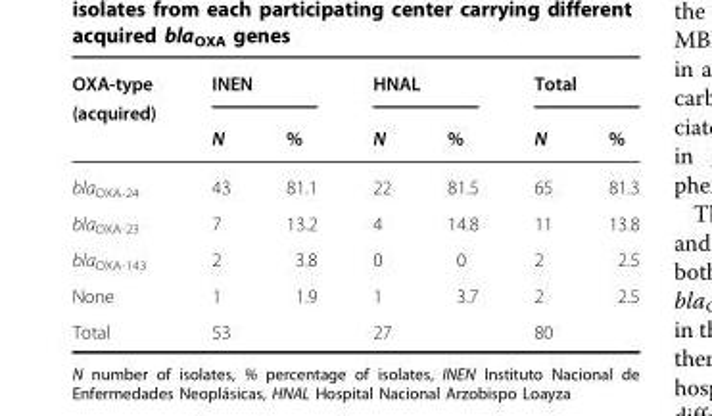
<table><thead><tr><td rowspan="2">OXA-type (acquired)</td><td colspan="2">INEN</td><td colspan="2">HNAL</td><td colspan="2">Total</td></tr><tr><td>N</td><td>%</td><td>N</td><td>%</td><td>N</td><td>%</td></tr></thead><tbody><tr><td>bla<sub>OXA-24</sub></td><td>43</td><td>81.1</td><td>22</td><td>81.5</td><td>65</td><td>81.3</td></tr><tr><td>bla<sub>OXA-23</sub></td><td>7</td><td>13.2</td><td>4</td><td>14.8</td><td>11</td><td>13.8</td></tr><tr><td>bla<sub>OXA-143</sub></td><td>2</td><td>3.8</td><td>0</td><td>0</td><td>2</td><td>2.5</td></tr><tr><td>None</td><td>1</td><td>1.9</td><td>1</td><td>3.7</td><td>2</td><td>2.5</td></tr><tr><td>Total</td><td>53</td><td></td><td>27</td><td></td><td>80</td><td></td></tr></tbody></table>